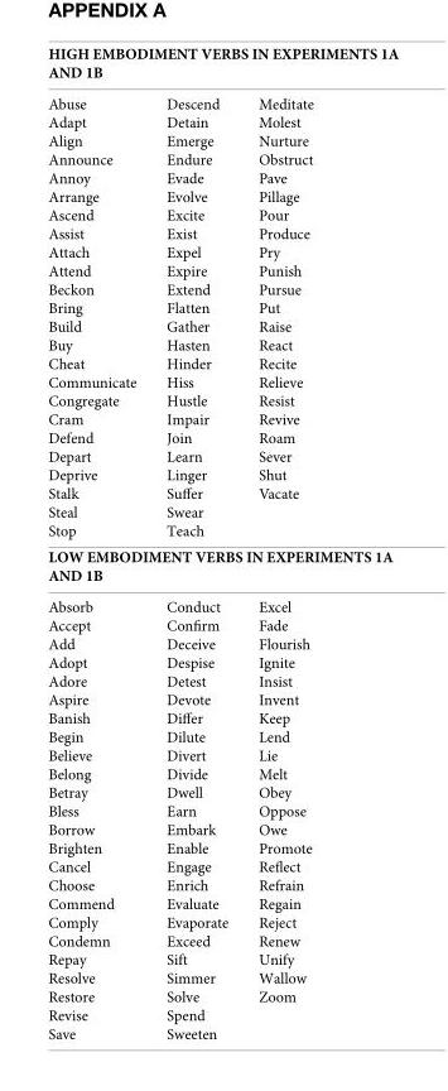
<table><tbody><tr><td colspan="3">HIGH EMBODIMENT VERBS IN EXPERIMENTS 1A AND 1B</td></tr><tr><td>Abuse</td><td>Descend</td><td>Meditate</td></tr><tr><td>Adapt</td><td>Detain</td><td>Molest</td></tr><tr><td>Align</td><td>Emerge</td><td>Nurture</td></tr><tr><td>Announce</td><td>Endure</td><td>Obstruct</td></tr><tr><td>Annoy</td><td>Evade</td><td>Pave</td></tr><tr><td>Arrange</td><td>Evolve</td><td>Pillage</td></tr><tr><td>Ascend</td><td>Excite</td><td>Pour</td></tr><tr><td>Assist</td><td>Exist</td><td>Produce</td></tr><tr><td>Attach</td><td>Expel</td><td>Pry</td></tr><tr><td>Attend</td><td>Expire</td><td>Punish</td></tr><tr><td>Beckon</td><td>Extend</td><td>Pursue</td></tr><tr><td>Bring</td><td>Flatten</td><td>Put</td></tr><tr><td>Build</td><td>Gather</td><td>Raise</td></tr><tr><td>Buy</td><td>Hasten</td><td>React</td></tr><tr><td>Cheat</td><td>Hinder</td><td>Recite</td></tr><tr><td>Communicate</td><td>Hiss</td><td>Relieve</td></tr><tr><td>Congregate</td><td>Hustle</td><td>Resist</td></tr><tr><td>Cram</td><td>Impair</td><td>Revive</td></tr><tr><td>Defend</td><td>Join</td><td>Roam</td></tr><tr><td>Depart</td><td>Learn</td><td>Sever</td></tr><tr><td>Deprive</td><td>Linger</td><td>Shut</td></tr><tr><td>Stalk</td><td>Suffer</td><td>Vacate</td></tr><tr><td>Steal</td><td>Swear</td><td></td></tr><tr><td>Stop</td><td>Teach</td><td></td></tr><tr><td colspan="3">LOW EMBODIMENT VERBS IN EXPERIMENTS 1A AND 1B</td></tr><tr><td>Absorb</td><td>Conduct</td><td>Excel</td></tr><tr><td>Accept</td><td>Confirm</td><td>Fade</td></tr><tr><td>Add</td><td>Deceive</td><td>Flourish</td></tr><tr><td>Adopt</td><td>Despise</td><td>Ignite</td></tr><tr><td>Adore</td><td>Detest</td><td>Insist</td></tr><tr><td>Aspire</td><td>Devote</td><td>Invent</td></tr><tr><td>Banish</td><td>Differ</td><td>Keep</td></tr><tr><td>Begin</td><td>Dilute</td><td>Lend</td></tr><tr><td>Believe</td><td>Divert</td><td>Lie</td></tr><tr><td>Belong</td><td>Divide</td><td>Melt</td></tr><tr><td>Betray</td><td>Dwell</td><td>Obey</td></tr><tr><td>Bless</td><td>Earn</td><td>Oppose</td></tr><tr><td>Borrow</td><td>Embark</td><td>Owe</td></tr><tr><td>Brighten</td><td>Enable</td><td>Promote</td></tr><tr><td>Cancel</td><td>Engage</td><td>Reflect</td></tr><tr><td>Choose</td><td>Enrich</td><td>Refrain</td></tr><tr><td>Commend</td><td>Evaluate</td><td>Regain</td></tr><tr><td>Comply</td><td>Evaporate</td><td>Reject</td></tr><tr><td>Condemn</td><td>Exceed</td><td>Renew</td></tr><tr><td>Repay</td><td>Sift</td><td>Unify</td></tr><tr><td>Resolve</td><td>Simmer</td><td>Wallow</td></tr><tr><td>Restore</td><td>Solve</td><td>Zoom</td></tr><tr><td>Revise</td><td>Spend</td><td></td></tr><tr><td>Save</td><td>Sweeten</td><td></td></tr></tbody></table>